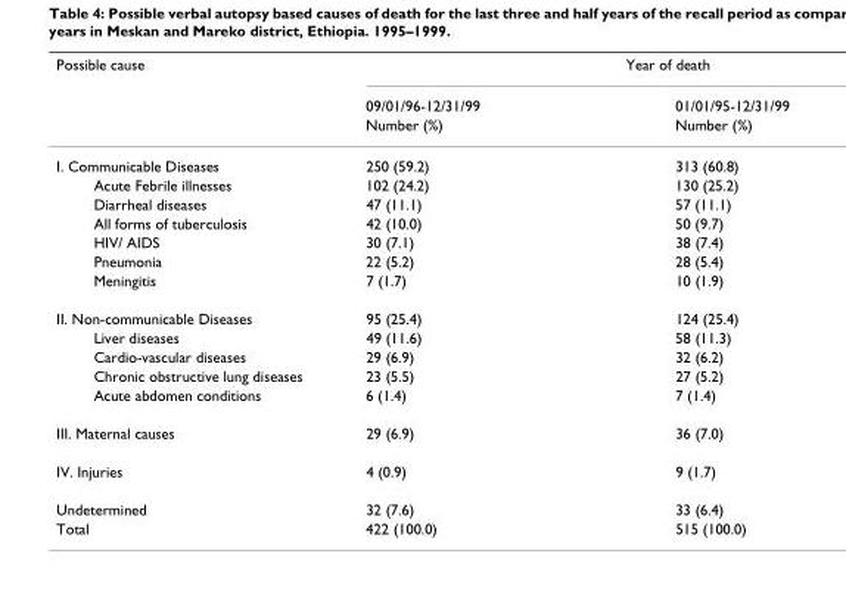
<table><thead><tr><td rowspan="3">Possible cause</td><td colspan="2">Year of death</td></tr><tr><td rowspan="2">09/01/96-12/31/99 Number (%)</td><td rowspan="2">01/01/95-12/31/99 Number (%)</td></tr><tr></tr></thead><tbody><tr><td>I. Communicable Diseases</td><td>250 (59.2)</td><td>313 (60.8)</td></tr><tr><td>Acute Febrile illnesses</td><td>102 (24.2)</td><td>130 (25.2)</td></tr><tr><td>Diarrheal diseases</td><td>47 (11.1)</td><td>57 (11.1)</td></tr><tr><td>All forms of tuberculosis</td><td>42 (10.0)</td><td>50 (9.7)</td></tr><tr><td>HIV/ AIDS</td><td>30 (7.1)</td><td>38 (7.4)</td></tr><tr><td>Pneumonia</td><td>22 (5.2)</td><td>28 (5.4)</td></tr><tr><td>Meningitis</td><td>7 (1.7)</td><td>10 (1.9)</td></tr><tr><td>II. Non-communicable Diseases</td><td>95 (25.4)</td><td>124 (25.4)</td></tr><tr><td>Liver diseases</td><td>49 (11.6)</td><td>58 (11.3)</td></tr><tr><td>Cardio-vascular diseases</td><td>29 (6.9)</td><td>32 (6.2)</td></tr><tr><td>Chronic obstructive lung diseases</td><td>23 (5.5)</td><td>27 (5.2)</td></tr><tr><td>Acute abdomen conditions</td><td>6 (1.4)</td><td>7 (1.4)</td></tr><tr><td>III. Maternal causes</td><td>29 (6.9)</td><td>36 (7.0)</td></tr><tr><td>IV. Injuries</td><td>4 (0.9)</td><td>9 (1.7)</td></tr><tr><td>Undetermined</td><td>32 (7.6)</td><td>33 (6.4)</td></tr><tr><td>Total</td><td>422 (100.0)</td><td>515 (100.0)</td></tr></tbody></table>